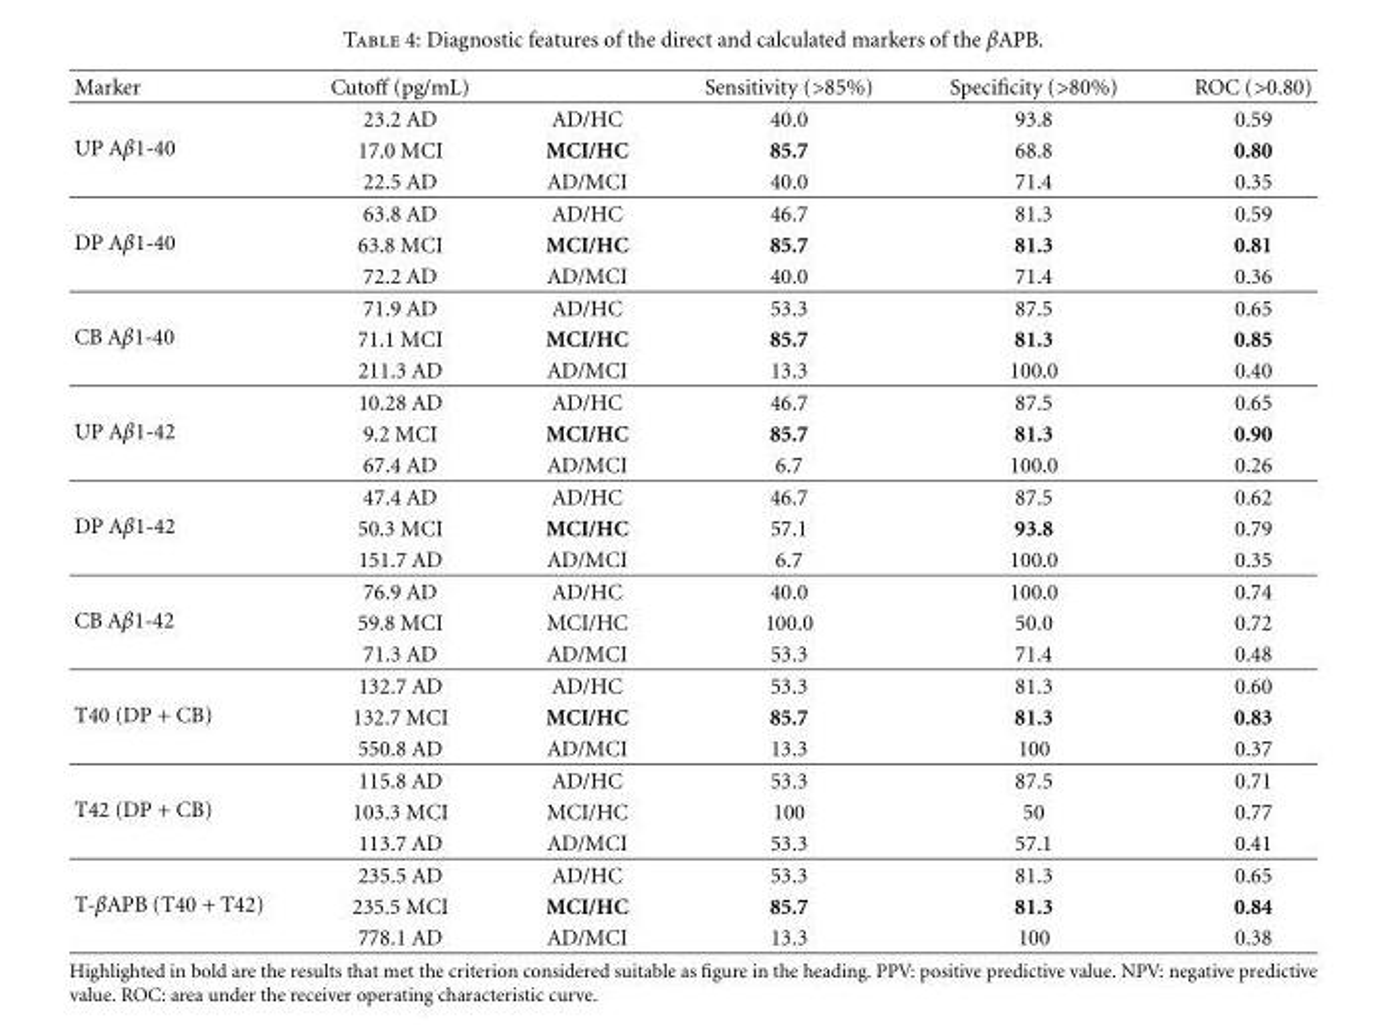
<table><thead><tr><td>Marker</td><td>Cutoff (pg/mL)</td><td></td><td>Sensitivity (&gt;85%)</td><td>Specificity (&gt;80%)</td><td>ROC (&gt;0.80)</td></tr></thead><tbody><tr><td rowspan="3">UP Aβ1-40</td><td>23.2 AD</td><td>AD/HC</td><td>40.0</td><td>93.8</td><td>0.59</td></tr><tr><td>17.0 MCI</td><td>MCI/HC</td><td>85.7</td><td>68.8</td><td>0.80</td></tr><tr><td>22.5 AD</td><td>AD/MCI</td><td>40.0</td><td>71.4</td><td>0.35</td></tr><tr><td rowspan="3">DP Aβ1-40</td><td>63.8 AD</td><td>AD/HC</td><td>46.7</td><td>81.3</td><td>0.59</td></tr><tr><td>63.8 MCI</td><td>MCI/HC</td><td>85.7</td><td>81.3</td><td>0.81</td></tr><tr><td>72.2 AD</td><td>AD/MCI</td><td>40.0</td><td>71.4</td><td>0.36</td></tr><tr><td rowspan="3">CB Aβ1-40</td><td>71.9 AD</td><td>AD/HC</td><td>53.3</td><td>87.5</td><td>0.65</td></tr><tr><td>71.1 MCI</td><td>MCI/HC</td><td>85.7</td><td>81.3</td><td>0.85</td></tr><tr><td>211.3 AD</td><td>AD/MCI</td><td>13.3</td><td>100.0</td><td>0.40</td></tr><tr><td rowspan="3">UP Aβ1-42</td><td>10.28 AD</td><td>AD/HC</td><td>46.7</td><td>87.5</td><td>0.65</td></tr><tr><td>9.2 MCI</td><td>MCI/HC</td><td>85.7</td><td>81.3</td><td>0.90</td></tr><tr><td>67.4 AD</td><td>AD/MCI</td><td>6.7</td><td>100.0</td><td>0.26</td></tr><tr><td rowspan="3">DP Aβ1-42</td><td>47.4 AD</td><td>AD/HC</td><td>46.7</td><td>87.5</td><td>0.62</td></tr><tr><td>50.3 MCI</td><td>MCI/HC</td><td>57.1</td><td>93.8</td><td>0.79</td></tr><tr><td>151.7 AD</td><td>AD/MCI</td><td>6.7</td><td>100.0</td><td>0.35</td></tr><tr><td rowspan="3">CB Aβ1-42</td><td>76.9 AD</td><td>AD/HC</td><td>40.0</td><td>100.0</td><td>0.74</td></tr><tr><td>59.8 MCI</td><td>MCI/HC</td><td>100.0</td><td>50.0</td><td>0.72</td></tr><tr><td>71.3 AD</td><td>AD/MCI</td><td>53.3</td><td>71.4</td><td>0.48</td></tr><tr><td rowspan="3">T40 (DP + CB)</td><td>132.7 AD</td><td>AD/HC</td><td>53.3</td><td>81.3</td><td>0.60</td></tr><tr><td>132.7 MCI</td><td>MCI/HC</td><td>85.7</td><td>81.3</td><td>0.83</td></tr><tr><td>550.8 AD</td><td>AD/MCI</td><td>13.3</td><td>100</td><td>0.37</td></tr><tr><td rowspan="3">T42 (DP + CB)</td><td>115.8 AD</td><td>AD/HC</td><td>53.3</td><td>87.5</td><td>0.71</td></tr><tr><td>103.3 MCI</td><td>MCI/HC</td><td>100</td><td>50</td><td>0.77</td></tr><tr><td>113.7 AD</td><td>AD/MCI</td><td>53.3</td><td>57.1</td><td>0.41</td></tr><tr><td rowspan="3">T-βAPB (T40 + T42)</td><td>235.5 AD</td><td>AD/HC</td><td>53.3</td><td>81.3</td><td>0.65</td></tr><tr><td>235.5 MCI</td><td>MCI/HC</td><td>85.7</td><td>81.3</td><td>0.84</td></tr><tr><td>778.1 AD</td><td>AD/MCI</td><td>13.3</td><td>100</td><td>0.38</td></tr></tbody></table>